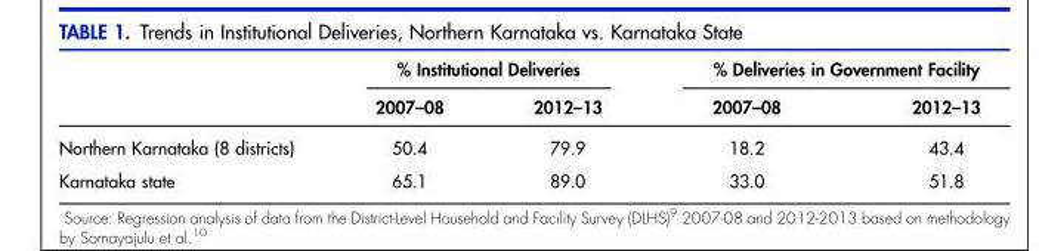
<table><thead><tr><td rowspan="2"></td><td colspan="2">% Institutional Deliveries</td><td colspan="2">% Deliveries in Government Facility</td></tr><tr><td>2007–08</td><td>2012–13</td><td>2007–08</td><td>2012–13</td></tr></thead><tbody><tr><td>Northern Karnataka (8 districts)</td><td>50.4</td><td>79.9</td><td>18.2</td><td>43.4</td></tr><tr><td>Karnataka state</td><td>65.1</td><td>89.0</td><td>33.0</td><td>51.8</td></tr></tbody></table>